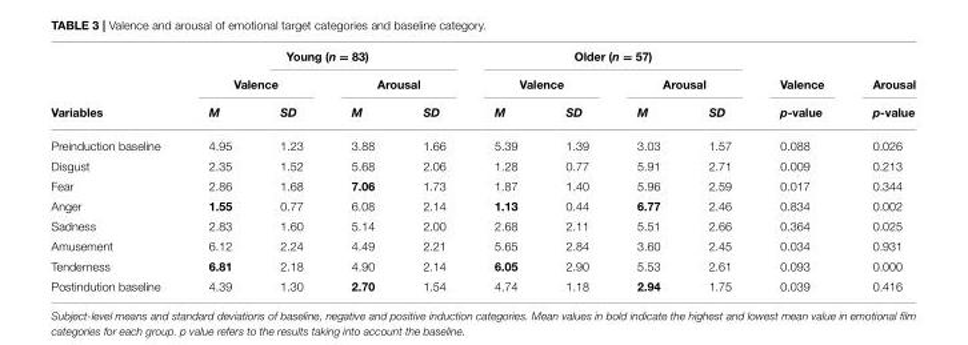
<table><thead><tr><td rowspan="3">Variables</td><td colspan="4">Young (n = 83)</td><td colspan="4">Older (n = 57)</td><td rowspan="3">Valence p-value</td><td rowspan="3">Arousal p-value</td></tr><tr><td colspan="2">Valence</td><td colspan="2">Arousal</td><td colspan="2">Valence</td><td colspan="2">Arousal</td></tr><tr><td>M</td><td>SD</td><td>M</td><td>SD</td><td>M</td><td>SD</td><td>M</td><td>SD</td></tr></thead><tbody><tr><td>Preinduction baseline</td><td>4.95</td><td>1.23</td><td>3.88</td><td>1.66</td><td>5.39</td><td>1.39</td><td>3.03</td><td>1.57</td><td>0.088</td><td>0.026</td></tr><tr><td>Disgust</td><td>2.35</td><td>1.52</td><td>5.68</td><td>2.06</td><td>1.28</td><td>0.77</td><td>5.91</td><td>2.71</td><td>0.009</td><td>0.213</td></tr><tr><td>Fear</td><td>2.86</td><td>1.68</td><td>7.06</td><td>1.73</td><td>1.87</td><td>1.40</td><td>5.96</td><td>2.59</td><td>0.017</td><td>0.344</td></tr><tr><td>Anger</td><td>1.55</td><td>0.77</td><td>6.08</td><td>2.14</td><td>1.13</td><td>0.44</td><td>6.77</td><td>2.46</td><td>0.834</td><td>0.002</td></tr><tr><td>Sadness</td><td>2.83</td><td>1.60</td><td>5.14</td><td>2.00</td><td>2.68</td><td>2.11</td><td>5.51</td><td>2.66</td><td>0.364</td><td>0.025</td></tr><tr><td>Amusement</td><td>6.12</td><td>2.24</td><td>4.49</td><td>2.21</td><td>5.65</td><td>2.84</td><td>3.60</td><td>2.45</td><td>0.034</td><td>0.931</td></tr><tr><td>Tenderness</td><td>6.81</td><td>2.18</td><td>4.90</td><td>2.14</td><td>6.05</td><td>2.90</td><td>5.53</td><td>2.61</td><td>0.093</td><td>0.000</td></tr><tr><td>Postindution baseline</td><td>4.39</td><td>1.30</td><td>2.70</td><td>1.54</td><td>4.74</td><td>1.18</td><td>2.94</td><td>1.75</td><td>0.039</td><td>0.416</td></tr></tbody></table>